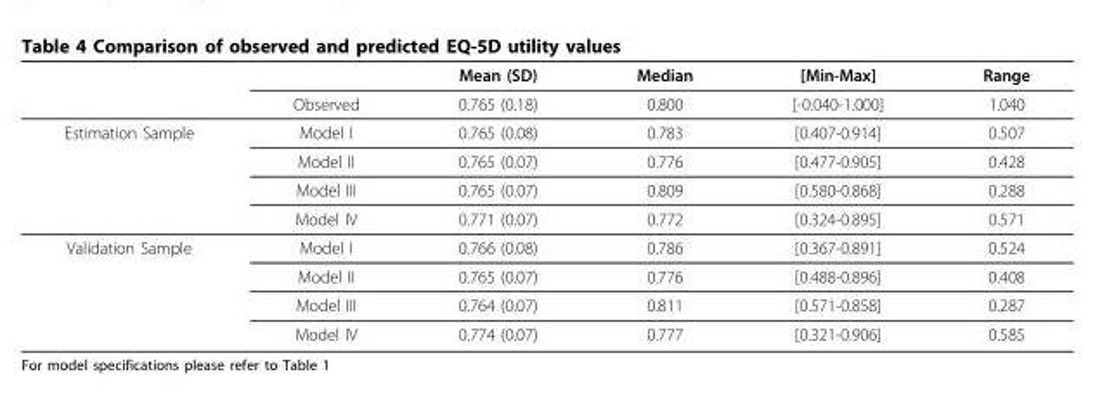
<table><thead><tr><td rowspan="2"></td><td rowspan="2">Observed</td><td rowspan="2">Mean (SD) 0.765 (0.18)</td><td rowspan="2">Median 0.800</td><td rowspan="2">[Min-Max] [-0.040-1.000]</td><td rowspan="2">Range 1.040</td></tr><tr></tr></thead><tbody><tr><td rowspan="4">Estimation Sample</td><td>Model I</td><td>0.765 (0.08)</td><td>0.783</td><td>[0.407-0.914]</td><td>0.507</td></tr><tr><td>Model II</td><td>0.765 (0.07)</td><td>0.776</td><td>[0.477-0.905]</td><td>0.428</td></tr><tr><td>Model III</td><td>0.765 (0.07)</td><td>0.809</td><td>[0.580-0.868]</td><td>0.288</td></tr><tr><td>Model IV</td><td>0.771 (0.07)</td><td>0.772</td><td>[0.324-0.895]</td><td>0.571</td></tr><tr><td rowspan="4">Validation Sample</td><td>Model I</td><td>0.766 (0.08)</td><td>0.786</td><td>[0.367-0.891]</td><td>0.524</td></tr><tr><td>Model II</td><td>0.765 (0.07)</td><td>0.776</td><td>[0.488-0.896]</td><td>0.408</td></tr><tr><td>Model III</td><td>0.764 (0.07)</td><td>0.811</td><td>[0.571-0.858]</td><td>0.287</td></tr><tr><td>Model IV</td><td>0.774 (0.07)</td><td>0.777</td><td>[0.321-0.906]</td><td>0.585</td></tr></tbody></table>